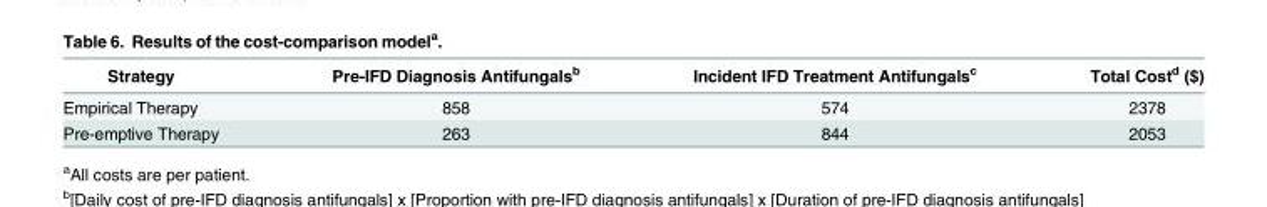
<table><thead><tr><td>Strategy</td><td>Pre-IFD Diagnosis Antifungals<sup>b</sup></td><td>Incident IFD Treatment Antifungals<sup>c</sup></td><td>Total Cost<sup>d</sup> ($)</td></tr></thead><tbody><tr><td>Empirical Therapy</td><td>858</td><td>574</td><td>2378</td></tr><tr><td>Pre-emptive Therapy</td><td>263</td><td>844</td><td>2053</td></tr></tbody></table>